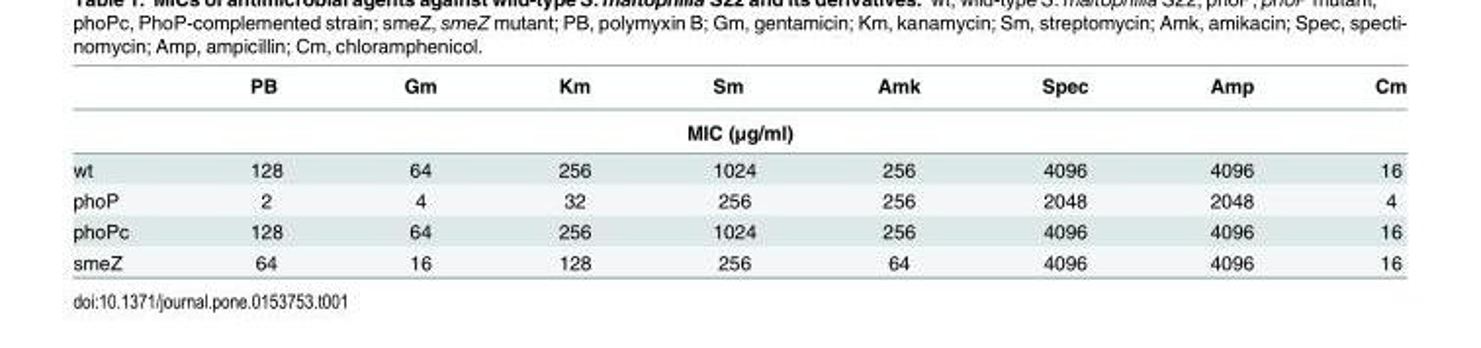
<table><thead><tr><td></td><td>PB</td><td>Gm</td><td>Km</td><td>Sm</td><td>Amk</td><td>Spec</td><td>Amp</td><td>Cm</td></tr><tr><td colspan="9">MIC (μg/ml)</td></tr></thead><tbody><tr><td>wt</td><td>128</td><td>64</td><td>256</td><td>1024</td><td>256</td><td>4096</td><td>4096</td><td>16</td></tr><tr><td>phoP</td><td>2</td><td>4</td><td>32</td><td>256</td><td>256</td><td>2048</td><td>2048</td><td>4</td></tr><tr><td>phoPc</td><td>128</td><td>64</td><td>256</td><td>1024</td><td>256</td><td>4096</td><td>4096</td><td>16</td></tr><tr><td>smeZ</td><td>64</td><td>16</td><td>128</td><td>256</td><td>64</td><td>4096</td><td>4096</td><td>16</td></tr></tbody></table>